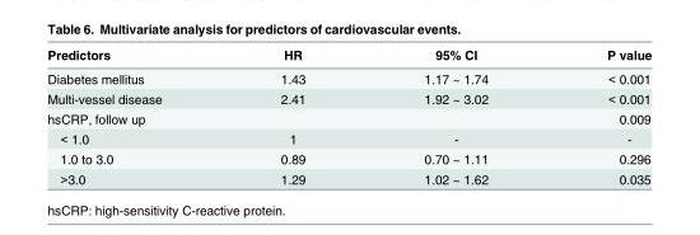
<table><thead><tr><td>Predictors</td><td>HR</td><td>95% CI</td><td>P value</td></tr></thead><tbody><tr><td>Diabetes mellitus</td><td>1.43</td><td>1.17 ~ 1.74</td><td>&lt; 0.001</td></tr><tr><td>Multi-vessel disease</td><td>2.41</td><td>1.92 ~ 3.02</td><td>&lt; 0.001</td></tr><tr><td>hsCRP, follow up</td><td></td><td></td><td>0.009</td></tr><tr><td>&lt; 1.0</td><td>1</td><td>-</td><td>-</td></tr><tr><td>1.0 to 3.0</td><td>0.89</td><td>0.70 ~ 1.11</td><td>0.296</td></tr><tr><td>&gt;3.0</td><td>1.29</td><td>1.02 ~ 1.62</td><td>0.035</td></tr></tbody></table>